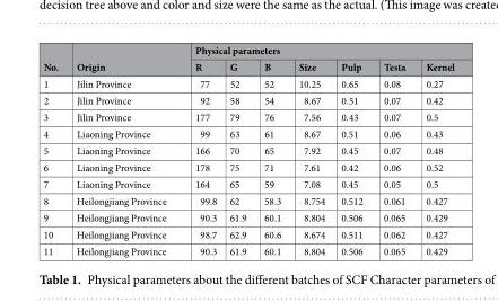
<table><thead><tr><td rowspan="2">No.</td><td rowspan="2">Origin</td><td colspan="7">Physical parameters</td></tr><tr><td>R</td><td>G</td><td>B</td><td>Size</td><td>Pulp</td><td>Testa</td><td>Kernel</td></tr></thead><tbody><tr><td>1</td><td>Jilin Province</td><td>77</td><td>52</td><td>52</td><td>10.25</td><td>0.65</td><td>0.08</td><td>0.27</td></tr><tr><td>2</td><td>Jilin Province</td><td>92</td><td>58</td><td>54</td><td>8.67</td><td>0.51</td><td>0.07</td><td>0.42</td></tr><tr><td>3</td><td>Jilin Province</td><td>177</td><td>79</td><td>76</td><td>7.56</td><td>0.43</td><td>0.07</td><td>0.5</td></tr><tr><td>4</td><td>Liaoning Province</td><td>99</td><td>63</td><td>61</td><td>8.67</td><td>0.51</td><td>0.06</td><td>0.43</td></tr><tr><td>5</td><td>Liaoning Province</td><td>166</td><td>70</td><td>65</td><td>7.92</td><td>0.45</td><td>0.07</td><td>0.48</td></tr><tr><td>6</td><td>Liaoning Province</td><td>178</td><td>75</td><td>71</td><td>7.61</td><td>0.42</td><td>0.06</td><td>0.52</td></tr><tr><td>7</td><td>Liaoning Province</td><td>164</td><td>65</td><td>59</td><td>7.08</td><td>0.45</td><td>0.05</td><td>0.5</td></tr><tr><td>8</td><td>Heilongjiang Province</td><td>99.8</td><td>62</td><td>58.3</td><td>8.754</td><td>0.512</td><td>0.061</td><td>0.427</td></tr><tr><td>9</td><td>Heilongjiang Province</td><td>90.3</td><td>61.9</td><td>60.1</td><td>8.804</td><td>0.506</td><td>0.065</td><td>0.429</td></tr><tr><td>10</td><td>Heilongjiang Province</td><td>98.7</td><td>62.9</td><td>60.6</td><td>8.674</td><td>0.511</td><td>0.062</td><td>0.427</td></tr><tr><td>11</td><td>Heilongjiang Province</td><td>90.3</td><td>61.9</td><td>60.1</td><td>8.804</td><td>0.506</td><td>0.065</td><td>0.429</td></tr></tbody></table>